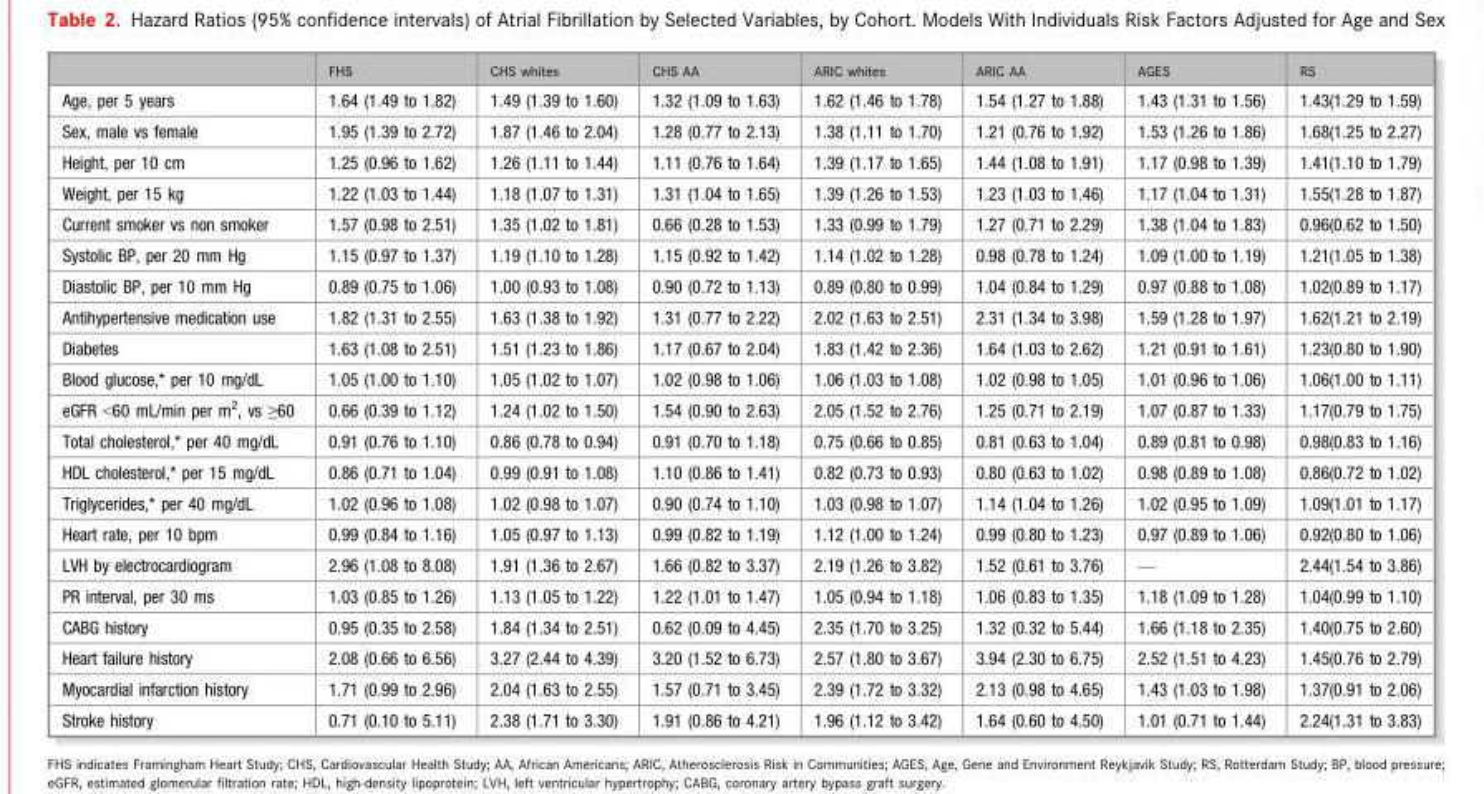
<table><thead><tr><td></td><td>FHS</td><td>CHS whites</td><td>CHS AA</td><td>ARIC whites</td><td>ARIC AA</td><td>AGES</td><td>RS</td></tr></thead><tbody><tr><td>Age, per 5 years</td><td>1.64 (1.49 to 1.82)</td><td>1.49 (1.39 to 1.60)</td><td>1.32 (1.09 to 1.63)</td><td>1.62 (1.46 to 1.78)</td><td>1.54 (1.27 to 1.88)</td><td>1.43 (1.31 to 1.56)</td><td>1.43(1.29 to 1.59)</td></tr><tr><td>Sex, male vs female</td><td>1.95 (1.39 to 2.72)</td><td>1.87 (1.46 to 2.04)</td><td>1.28 (0.77 to 2.13)</td><td>1.38 (1.11 to 1.70)</td><td>1.21 (0.76 to 1.92)</td><td>1.53 (1.26 to 1.86)</td><td>1.68(1.25 to 2.27)</td></tr><tr><td>Height, per 10 cm</td><td>1.25 (0.96 to 1.62)</td><td>1.26 (1.11 to 1.44)</td><td>1.11 (0.76 to 1.64)</td><td>1.39 (1.17 to 1.65)</td><td>1.44 (1.08 to 1.91)</td><td>1.17 (0.98 to 1.39)</td><td>1.41(1.10 to 1.79)</td></tr><tr><td>Weight, per 15 kg</td><td>1.22 (1.03 to 1.44)</td><td>1.18 (1.07 to 1.31)</td><td>1.31 (1.04 to 1.65)</td><td>1.39 (1.26 to 1.53)</td><td>1.23 (1.03 to 1.46)</td><td>1.17 (1.04 to 1.31)</td><td>1.55(1.28 to 1.87)</td></tr><tr><td>Current smoker vs non smoker</td><td>1.57 (0.98 to 2.51)</td><td>1.35 (1.02 to 1.81)</td><td>0.66 (0.28 to 1.53)</td><td>1.33 (0.99 to 1.79)</td><td>1.27 (0.71 to 2.29)</td><td>1.38 (1.04 to 1.83)</td><td>0.96(0.62 to 1.50)</td></tr><tr><td>Systolic BP, per 20 mm Hg</td><td>1.15 (0.97 to 1.37)</td><td>1.19 (1.10 to 1.28)</td><td>1.15 (0.92 to 1.42)</td><td>1.14 (1.02 to 1.28)</td><td>0.98 (0.78 to 1.24)</td><td>1.09 (1.00 to 1.19)</td><td>1.21(1.05 to 1.38)</td></tr><tr><td>Diastolic BP, per 10 mm Hg</td><td>0.89 (0.75 to 1.06)</td><td>1.00 (0.93 to 1.08)</td><td>0.90 (0.72 to 1.13)</td><td>0.89 (0.80 to 0.99)</td><td>1.04 (0.84 to 1.29)</td><td>0.97 (0.88 to 1.08)</td><td>1.02(0.89 to 1.17)</td></tr><tr><td>Antihypertensive medication use</td><td>1.82 (1.31 to 2.55)</td><td>1.63 (1.38 to 1.92)</td><td>1.31 (0.77 to 2.22)</td><td>2.02 (1.63 to 2.51)</td><td>2.31 (1.34 to 3.98)</td><td>1.59 (1.28 to 1.97)</td><td>1.62(1.21 to 2.19)</td></tr><tr><td>Diabetes</td><td>1.63 (1.08 to 2.51)</td><td>1.51 (1.23 to 1.86)</td><td>1.17 (0.67 to 2.04)</td><td>1.83 (1.42 to 2.36)</td><td>1.64 (1.03 to 2.62)</td><td>1.21 (0.91 to 1.61)</td><td>1.23(0.80 to 1.90)</td></tr><tr><td>Blood glucose,* per 10 mg/dL</td><td>1.05 (1.00 to 1.10)</td><td>1.05 (1.02 to 1.07)</td><td>1.02 (0.98 to 1.06)</td><td>1.06 (1.03 to 1.08)</td><td>1.02 (0.98 to 1.05)</td><td>1.01 (0.96 to 1.06)</td><td>1.06(1.00 to 1.11)</td></tr><tr><td>eGFR &lt;60 mL/min per m<sup>2</sup>, vs ≥60</td><td>0.66 (0.39 to 1.12)</td><td>1.24 (1.02 to 1.50)</td><td>1.54 (0.90 to 2.63)</td><td>2.05 (1.52 to 2.76)</td><td>1.25 (0.71 to 2.19)</td><td>1.07 (0.87 to 1.33)</td><td>1.17(0.79 to 1.75)</td></tr><tr><td>Total cholesterol,* per 40 mg/dL</td><td>0.91 (0.76 to 1.10)</td><td>0.86 (0.78 to 0.94)</td><td>0.91 (0.70 to 1.18)</td><td>0.75 (0.66 to 0.85)</td><td>0.81 (0.63 to 1.04)</td><td>0.89 (0.81 to 0.98)</td><td>0.98(0.83 to 1.16)</td></tr><tr><td>HDL cholesterol,* per 15 mg/dL</td><td>0.86 (0.71 to 1.04)</td><td>0.99 (0.91 to 1.08)</td><td>1.10 (0.86 to 1.41)</td><td>0.82 (0.73 to 0.93)</td><td>0.80 (0.63 to 1.02)</td><td>0.98 (0.89 to 1.08)</td><td>0.86(0.72 to 1.02)</td></tr><tr><td>Triglycerides,* per 40 mg/dL</td><td>1.02 (0.96 to 1.08)</td><td>1.02 (0.98 to 1.07)</td><td>0.90 (0.74 to 1.10)</td><td>1.03 (0.98 to 1.07)</td><td>1.14 (1.04 to 1.26)</td><td>1.02 (0.95 to 1.09)</td><td>1.09(1.01 to 1.17)</td></tr><tr><td>Heart rate, per 10 bpm</td><td>0.99 (0.84 to 1.16)</td><td>1.05 (0.97 to 1.13)</td><td>0.99 (0.82 to 1.19)</td><td>1.12 (1.00 to 1.24)</td><td>0.99 (0.80 to 1.23)</td><td>0.97 (0.89 to 1.06)</td><td>0.92(0.80 to 1.06)</td></tr><tr><td>LVH by electrocardiogram</td><td>2.96 (1.08 to 8.08)</td><td>1.91 (1.36 to 2.67)</td><td>1.66 (0.82 to 3.37)</td><td>2.19 (1.26 to 3.82)</td><td>1.52 (0.61 to 3.76)</td><td>—</td><td>2.44(1.54 to 3.86)</td></tr><tr><td>PR interval, per 30 ms</td><td>1.03 (0.85 to 1.26)</td><td>1.13 (1.05 to 1.22)</td><td>1.22 (1.01 to 1.47)</td><td>1.05 (0.94 to 1.18)</td><td>1.06 (0.83 to 1.35)</td><td>1.18 (1.09 to 1.28)</td><td>1.04(0.99 to 1.10)</td></tr><tr><td>CABG history</td><td>0.95 (0.35 to 2.58)</td><td>1.84 (1.34 to 2.51)</td><td>0.62 (0.09 to 4.45)</td><td>2.35 (1.70 to 3.25)</td><td>1.32 (0.32 to 5.44)</td><td>1.66 (1.18 to 2.35)</td><td>1.40(0.75 to 2.60)</td></tr><tr><td>Heart failure history</td><td>2.08 (0.66 to 6.56)</td><td>3.27 (2.44 to 4.39)</td><td>3.20 (1.52 to 6.73)</td><td>2.57 (1.80 to 3.67)</td><td>3.94 (2.30 to 6.75)</td><td>2.52 (1.51 to 4.23)</td><td>1.45(0.76 to 2.79)</td></tr><tr><td>Myocardial infarction history</td><td>1.71 (0.99 to 2.96)</td><td>2.04 (1.63 to 2.55)</td><td>1.57 (0.71 to 3.45)</td><td>2.39 (1.72 to 3.32)</td><td>2.13 (0.98 to 4.65)</td><td>1.43 (1.03 to 1.98)</td><td>1.37(0.91 to 2.06)</td></tr><tr><td>Stroke history</td><td>0.71 (0.10 to 5.11)</td><td>2.38 (1.71 to 3.30)</td><td>1.91 (0.86 to 4.21)</td><td>1.96 (1.12 to 3.42)</td><td>1.64 (0.60 to 4.50)</td><td>1.01 (0.71 to 1.44)</td><td>2.24(1.31 to 3.83)</td></tr></tbody></table>